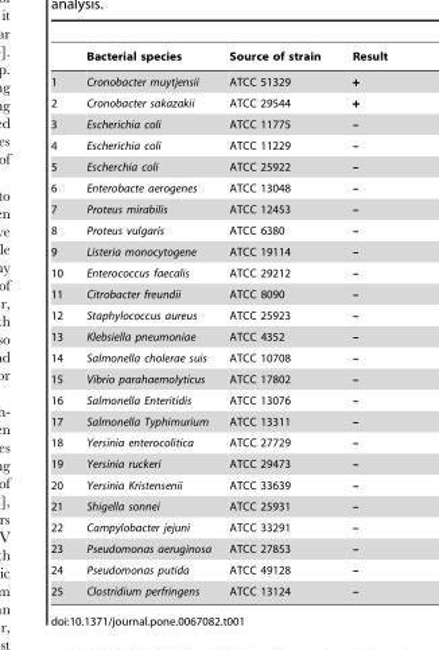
<table><thead><tr><td></td><td>Bacterial species</td><td>Source of strain</td><td>Result</td></tr></thead><tbody><tr><td>1</td><td>Cronobacter muytjensii</td><td>ATCC 51329</td><td>+</td></tr><tr><td>2</td><td>Cronobacter sakazakii</td><td>ATCC 29544</td><td>+</td></tr><tr><td>3</td><td>Escherichia coli</td><td>ATCC 11775</td><td>–</td></tr><tr><td>4</td><td>Escherichia coli</td><td>ATCC 11229</td><td>–</td></tr><tr><td>5</td><td>Escherchia coli</td><td>ATCC 25922</td><td>–</td></tr><tr><td>6</td><td>Enterobacte aerogenes</td><td>ATCC 13048</td><td>–</td></tr><tr><td>7</td><td>Proteus mirabilis</td><td>ATCC 12453</td><td>–</td></tr><tr><td>8</td><td>Proteus vulgaris</td><td>ATCC 6380</td><td>–</td></tr><tr><td>9</td><td>Listeria monocytogene</td><td>ATCC 19114</td><td>–</td></tr><tr><td>10</td><td>Enterococcus faecalis</td><td>ATCC 29212</td><td>–</td></tr><tr><td>11</td><td>Citrobacter freundii</td><td>ATCC 8090</td><td>–</td></tr><tr><td>12</td><td>Staphylococcus aureus</td><td>ATCC 25923</td><td>–</td></tr><tr><td>13</td><td>Klebsiella pneumoniae</td><td>ATCC 4352</td><td>–</td></tr><tr><td>14</td><td>Salmonella cholerae suis</td><td>ATCC 10708</td><td>–</td></tr><tr><td>15</td><td>Vibrio parahaemolyticus</td><td>ATCC 17802</td><td>–</td></tr><tr><td>16</td><td>Salmonella Enteritidis</td><td>ATCC 13076</td><td>–</td></tr><tr><td>17</td><td>Salmonella Typhimurium</td><td>ATCC 13311</td><td>–</td></tr><tr><td>18</td><td>Yersinia enterocolitica</td><td>ATCC 27729</td><td>–</td></tr><tr><td>19</td><td>Yersinia ruckeri</td><td>ATCC 29473</td><td>–</td></tr><tr><td>20</td><td>Yersinia Kristensenii</td><td>ATCC 33639</td><td>–</td></tr><tr><td>21</td><td>Shigella sonnei</td><td>ATCC 25931</td><td>–</td></tr><tr><td>22</td><td>Campylobacter jejuni</td><td>ATCC 33291</td><td>–</td></tr><tr><td>23</td><td>Pseudomonas aeruginosa</td><td>ATCC 27853</td><td>–</td></tr><tr><td>24</td><td>Pseudomonas putida</td><td>ATCC 49128</td><td>–</td></tr><tr><td>25</td><td>Clostridium perfringens</td><td>ATCC 13124</td><td>–</td></tr></tbody></table>